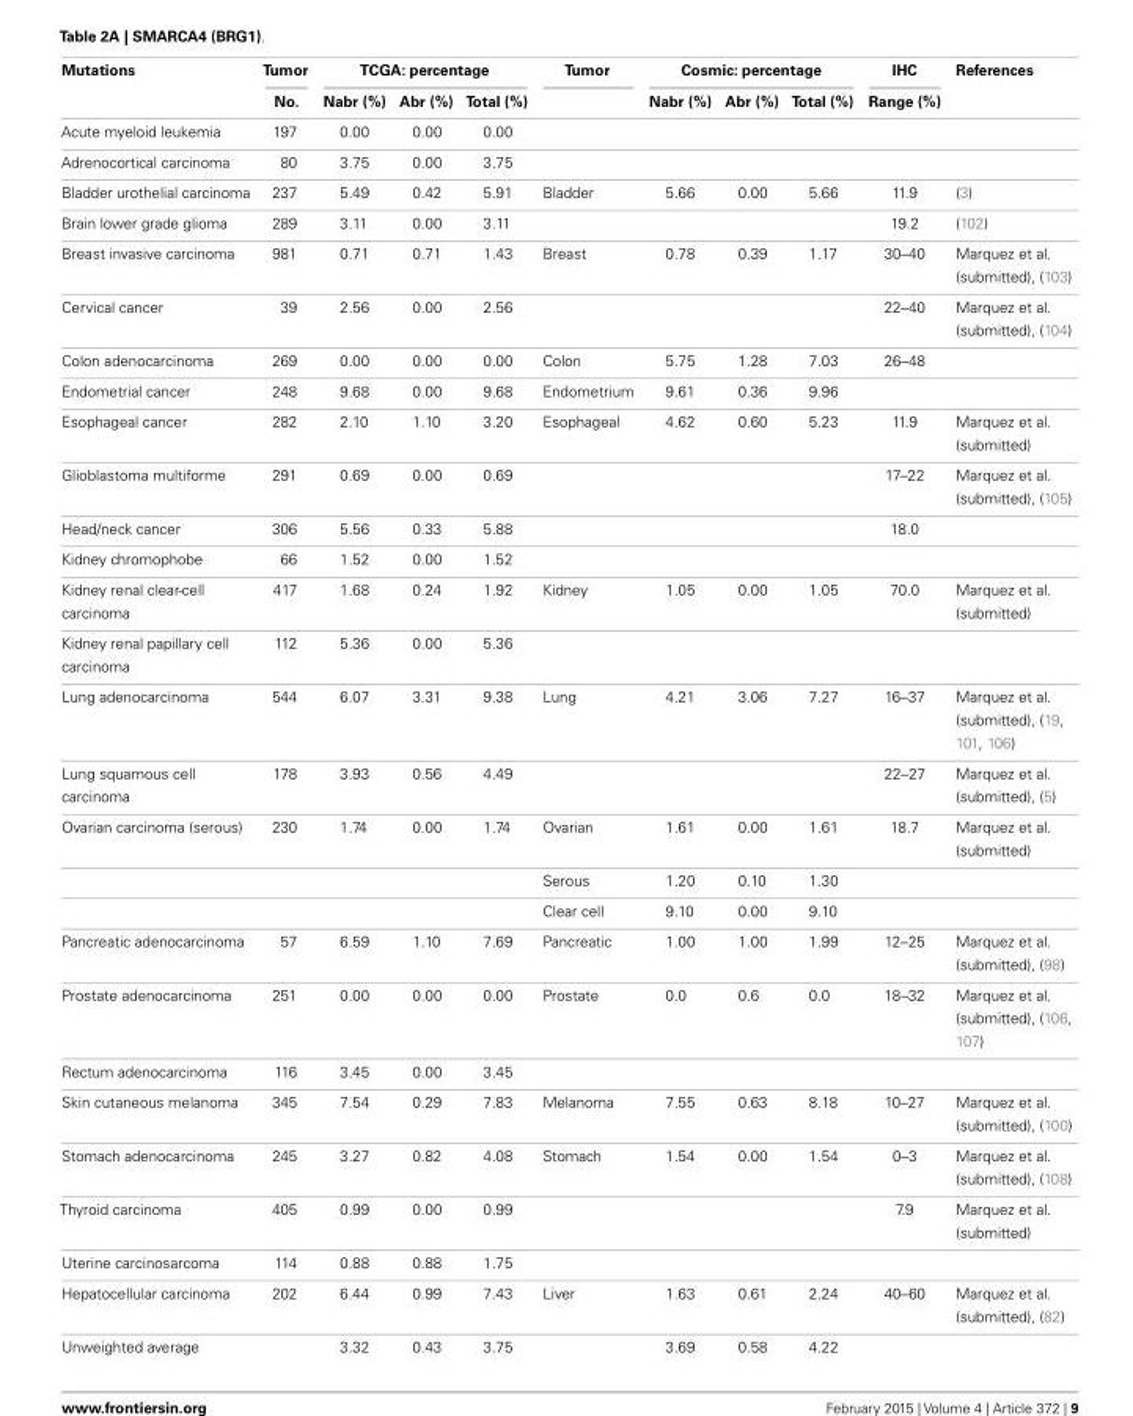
<table><thead><tr><td rowspan="2">Mutations</td><td rowspan="2">Tumor No.</td><td colspan="3">TCGA: percentage</td><td rowspan="2">Tumor</td><td colspan="3">Cosmic: percentage</td><td rowspan="2">IHC Range (%)</td><td rowspan="2">References</td></tr><tr><td>Nabr (%)</td><td>Abr (%)</td><td>Total (%)</td><td>Nabr (%)</td><td>Abr (%)</td><td>Total (%)</td></tr></thead><tbody><tr><td>Acute myeloid leukemia</td><td>197</td><td>0.00</td><td>0.00</td><td>0.00</td><td></td><td></td><td></td><td></td><td></td><td></td></tr><tr><td>Adrenocortical carcinoma</td><td>80</td><td>3.75</td><td>0.00</td><td>3.75</td><td></td><td></td><td></td><td></td><td></td><td></td></tr><tr><td>Bladder urothelial carcinoma</td><td>237</td><td>5.49</td><td>0.42</td><td>5.91</td><td>Bladder</td><td>5.66</td><td>0.00</td><td>5.66</td><td>11.9</td><td>(3)</td></tr><tr><td>Brain lower grade glioma</td><td>289</td><td>3.11</td><td>0.00</td><td>3.11</td><td></td><td></td><td></td><td></td><td>19.2</td><td>(102)</td></tr><tr><td>Breast invasive carcinoma</td><td>981</td><td>0.71</td><td>0.71</td><td>1.43</td><td>Breast</td><td>0.78</td><td>0.39</td><td>1.17</td><td>30–40</td><td>Marquez et al. (submitted), (103)</td></tr><tr><td>Cervical cancer</td><td>39</td><td>2.56</td><td>0.00</td><td>2.56</td><td></td><td></td><td></td><td></td><td>22–40</td><td>Marquez et al. (submitted), (104)</td></tr><tr><td>Colon adenocarcinoma</td><td>269</td><td>0.00</td><td>0.00</td><td>0.00</td><td>Colon</td><td>5.75</td><td>1.28</td><td>7.03</td><td>26–48</td><td></td></tr><tr><td>Endometrial cancer</td><td>248</td><td>9.68</td><td>0.00</td><td>9.68</td><td>Endometrium</td><td>9.61</td><td>0.36</td><td>9.96</td><td></td><td></td></tr><tr><td>Esophageal cancer</td><td>282</td><td>2.10</td><td>1.10</td><td>3.20</td><td>Esophageal</td><td>4.62</td><td>0.60</td><td>5.23</td><td>11.9</td><td>Marquez et al. (submitted)</td></tr><tr><td>Glioblastoma multiforme</td><td>291</td><td>0.69</td><td>0.00</td><td>0.69</td><td></td><td></td><td></td><td></td><td>17–22</td><td>Marquez et al. (submitted), (105)</td></tr><tr><td>Head/neck cancer</td><td>306</td><td>5.56</td><td>0.33</td><td>5.88</td><td></td><td></td><td></td><td></td><td>18.0</td><td></td></tr><tr><td>Kidney chromophobe</td><td>66</td><td>1.52</td><td>0.00</td><td>1.52</td><td></td><td></td><td></td><td></td><td></td><td></td></tr><tr><td>Kidney renal clear-cell carcinoma</td><td>417</td><td>1.68</td><td>0.24</td><td>1.92</td><td>Kidney</td><td>1.05</td><td>0.00</td><td>1.05</td><td>70.0</td><td>Marquez et al. (submitted)</td></tr><tr><td>Kidney renal papillary cell carcinoma</td><td>112</td><td>5.36</td><td>0.00</td><td>5.36</td><td></td><td></td><td></td><td></td><td></td><td></td></tr><tr><td>Lung adenocarcinoma</td><td>544</td><td>6.07</td><td>3.31</td><td>9.38</td><td>Lung</td><td>4.21</td><td>3.06</td><td>7.27</td><td>16–37</td><td>Marquez et al. (submitted), (19, 101, 106)</td></tr><tr><td>Lung squamous cell carcinoma</td><td>178</td><td>3.93</td><td>0.56</td><td>4.49</td><td></td><td></td><td></td><td></td><td>22–27</td><td>Marquez et al. (submitted), (5)</td></tr><tr><td rowspan="3">Ovarian carcinoma (serous)</td><td>230</td><td>1.74</td><td>0.00</td><td>1.74</td><td>Ovarian</td><td>1.61</td><td>0.00</td><td>1.61</td><td>18.7</td><td>Marquez et al. (submitted)</td></tr><tr><td></td><td></td><td></td><td></td><td>Serous</td><td>1.20</td><td>0.10</td><td>1.30</td><td></td><td></td></tr><tr><td></td><td></td><td></td><td></td><td>Clear cell</td><td>9.10</td><td>0.00</td><td>9.10</td><td></td><td></td></tr><tr><td>Pancreatic adenocarcinoma</td><td>57</td><td>6.59</td><td>1.10</td><td>7.69</td><td>Pancreatic</td><td>1.00</td><td>1.00</td><td>1.99</td><td>12–25</td><td>Marquez et al. (submitted), (98)</td></tr><tr><td>Prostate adenocarcinoma</td><td>251</td><td>0.00</td><td>0.00</td><td>0.00</td><td>Prostate</td><td>0.0</td><td>0.6</td><td>0.0</td><td>18–32</td><td>Marquez et al. (submitted), (106, 107)</td></tr><tr><td>Rectum adenocarcinoma</td><td>116</td><td>3.45</td><td>0.00</td><td>3.45</td><td></td><td></td><td></td><td></td><td></td><td></td></tr><tr><td>Skin cutaneous melanoma</td><td>345</td><td>7.54</td><td>0.29</td><td>7.83</td><td>Melanoma</td><td>7.55</td><td>0.63</td><td>8.18</td><td>10–27</td><td>Marquez et al. (submitted), (100)</td></tr><tr><td>Stomach adenocarcinoma</td><td>245</td><td>3.27</td><td>0.82</td><td>4.08</td><td>Stomach</td><td>1.54</td><td>0.00</td><td>1.54</td><td>0–3</td><td>Marquez et al. (submitted), (108)</td></tr><tr><td>Thyroid carcinoma</td><td>405</td><td>0.99</td><td>0.00</td><td>0.99</td><td></td><td></td><td></td><td></td><td>7.9</td><td>Marquez et al. (submitted)</td></tr><tr><td>Uterine carcinosarcoma</td><td>114</td><td>0.88</td><td>0.88</td><td>1.75</td><td></td><td></td><td></td><td></td><td></td><td></td></tr><tr><td>Hepatocellular carcinoma</td><td>202</td><td>6.44</td><td>0.99</td><td>7.43</td><td>Liver</td><td>1.63</td><td>0.61</td><td>2.24</td><td>40–60</td><td>Marquez et al. (submitted), (82)</td></tr><tr><td>Unweighted average</td><td></td><td>3.32</td><td>0.43</td><td>3.75</td><td></td><td>3.69</td><td>0.58</td><td>4.22</td><td></td><td></td></tr></tbody></table>